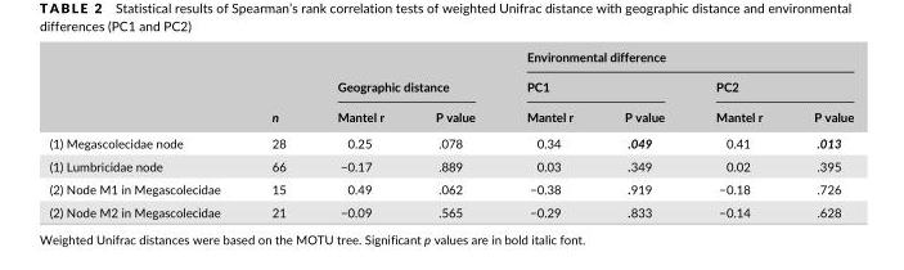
<table><thead><tr><td rowspan="3"></td><td rowspan="3">n</td><td rowspan="2" colspan="2">Geographic distance</td><td colspan="4">Environmental difference</td></tr><tr><td colspan="2">PC1</td><td colspan="2">PC2</td></tr><tr><td>Mantel r</td><td>P value</td><td>Mantel r</td><td>P value</td><td>Mantel r</td><td>P value</td></tr></thead><tbody><tr><td>(1) Megascolecidae node</td><td>28</td><td>0.25</td><td>.078</td><td>0.34</td><td>.049</td><td>0.41</td><td>.013</td></tr><tr><td>(1) Lumbricidae node</td><td>66</td><td>−0.17</td><td>.889</td><td>0.03</td><td>.349</td><td>0.02</td><td>.395</td></tr><tr><td>(2) Node M1 in Megascolecidae</td><td>15</td><td>0.49</td><td>.062</td><td>−0.38</td><td>.919</td><td>−0.18</td><td>.726</td></tr><tr><td>(2) Node M2 in Megascolecidae</td><td>21</td><td>−0.09</td><td>.565</td><td>−0.29</td><td>.833</td><td>−0.14</td><td>.628</td></tr></tbody></table>